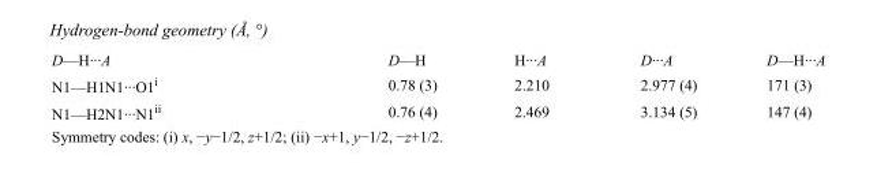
<table><tbody><tr><td>D—H···A</td><td>D—H</td><td>H···A</td><td>D···A</td><td>D—H···A</td></tr><tr><td>N1—H1N1···O1<sup>i</sup></td><td>0.78 (3)</td><td>2.210</td><td>2.977 (4)</td><td>171 (3)</td></tr><tr><td>N1—H2N1···N1<sup>ii</sup></td><td>0.76 (4)</td><td>2.469</td><td>3.134 (5)</td><td>147 (4)</td></tr></tbody></table>